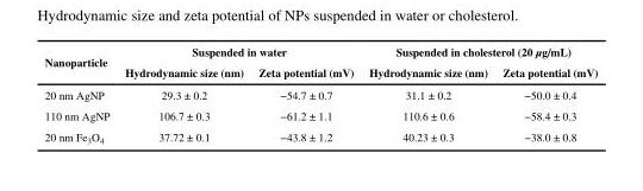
<table><thead><tr><td rowspan="2">Nanoparticle</td><td colspan="2">Suspended in water</td><td colspan="2">Suspended in cholesterol (20 μg/mL)</td></tr><tr><td>Hydrodynamic size (nm)</td><td>Zeta potential (mV)</td><td>Hydrodynamic size (nm)</td><td>Zeta potential (mV)</td></tr></thead><tbody><tr><td>20 nm AgNP</td><td>29.3 ± 0.2</td><td>−54.7 ± 0.7</td><td>31.1 ± 0.2</td><td>−50.0 ± 0.4</td></tr><tr><td>110 nm AgNP</td><td>106.7 ± 0.3</td><td>−61.2 ± 1.1</td><td>110.6 ± 0.6</td><td>−58.4 ± 0.3</td></tr><tr><td>20 nm Fe<sub>3</sub>O<sub>4</sub></td><td>37.72 ± 0.1</td><td>−43.8 ± 1.2</td><td>40.23 ± 0.3</td><td>−38.0 ± 0.8</td></tr></tbody></table>